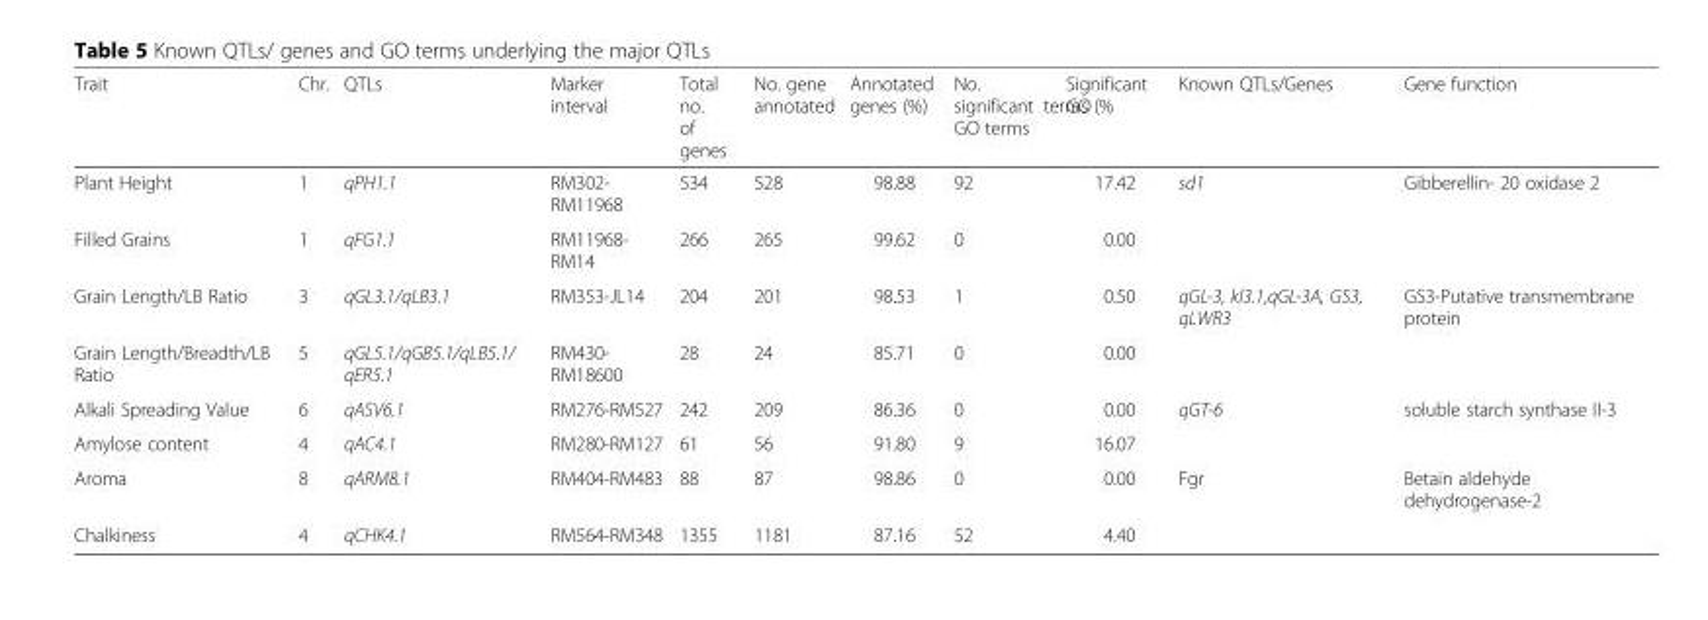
<table><thead><tr><td>Trait</td><td>Chr.</td><td>QTLs</td><td>Marker interval</td><td>Total no. of genes</td><td>No. gene annotated</td><td>Annotated genes (%)</td><td>No. significant GO terms</td><td>Significant GO terms (%</td><td>Known QTLs/Genes</td><td>Gene function</td></tr></thead><tbody><tr><td>Plant Height</td><td>1</td><td>qPH1.1</td><td>RM302- RM11968</td><td>534</td><td>528</td><td>98.88</td><td>92</td><td>17.42</td><td>sd1</td><td>Gibberellin- 20 oxidase 2</td></tr><tr><td>Filled Grains</td><td>1</td><td>qFG1.1</td><td>RM11968- RM14</td><td>266</td><td>265</td><td>99.62</td><td>0</td><td>0.00</td><td></td><td></td></tr><tr><td>Grain Length/LB Ratio</td><td>3</td><td>qGL3.1/qLB3.1</td><td>RM353-JL14</td><td>204</td><td>201</td><td>98.53</td><td>1</td><td>0.50</td><td>qGL-3, kl3.1,qGL-3A, GS3, qLWR3</td><td>GS3-Putative transmembrane protein</td></tr><tr><td>Grain Length/Breadth/LB Ratio</td><td>5</td><td>qGL5.1/qGB5.1/qLB5.1/ qER5.1</td><td>RM430- RM18600</td><td>28</td><td>24</td><td>85.71</td><td>0</td><td>0.00</td><td></td><td></td></tr><tr><td>Alkali Spreading Value</td><td>6</td><td>qASV6.1</td><td>RM276-RM527</td><td>242</td><td>209</td><td>86.36</td><td>0</td><td>0.00</td><td>qGT-6</td><td>soluble starch synthase II-3</td></tr><tr><td>Amylose content</td><td>4</td><td>qAC4.1</td><td>RM280-RM127</td><td>61</td><td>56</td><td>91.80</td><td>9</td><td>16.07</td><td></td><td></td></tr><tr><td>Aroma</td><td>8</td><td>qARM8.1</td><td>RM404-RM483</td><td>88</td><td>87</td><td>98.86</td><td>0</td><td>0.00</td><td>Fgr</td><td>Betain aldehyde dehydrogenase-2</td></tr><tr><td>Chalkiness</td><td>4</td><td>qCHK4.1</td><td>RM564-RM348</td><td>1355</td><td>1181</td><td>87.16</td><td>52</td><td>4.40</td><td></td><td></td></tr></tbody></table>